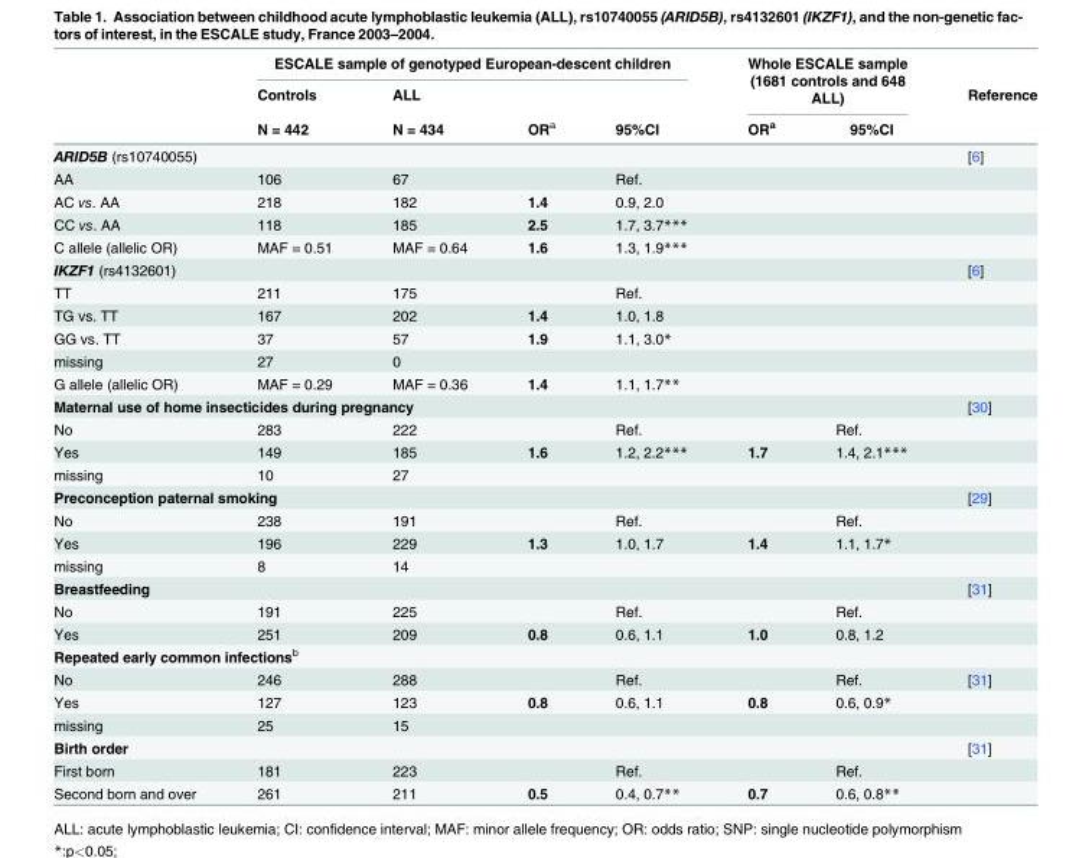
<table><thead><tr><td rowspan="3"></td><td colspan="4">ESCALE sample of genotyped European-descent children</td><td rowspan="2" colspan="2">Whole ESCALE sample (1681 controls and 648 ALL)</td><td rowspan="3">Reference</td></tr><tr><td rowspan="2">Controls N = 442</td><td rowspan="2">ALL N = 434</td><td rowspan="2">OR<sup>a</sup></td><td rowspan="2">95%CI</td></tr><tr><td>OR<sup>a</sup></td><td>95%CI</td></tr></thead><tbody><tr><td>ARID5B (rs10740055)</td><td></td><td></td><td></td><td></td><td></td><td></td><td>[6]</td></tr><tr><td>AA</td><td>106</td><td>67</td><td></td><td>Ref.</td><td></td><td></td><td></td></tr><tr><td>AC vs. AA</td><td>218</td><td>182</td><td>1.4</td><td>0.9, 2.0</td><td></td><td></td><td></td></tr><tr><td>CC vs. AA</td><td>118</td><td>185</td><td>2.5</td><td>1.7, 3.7***</td><td></td><td></td><td></td></tr><tr><td>C allele (allelic OR)</td><td>MAF = 0.51</td><td>MAF = 0.64</td><td>1.6</td><td>1.3, 1.9***</td><td></td><td></td><td></td></tr><tr><td>IKZF1 (rs4132601)</td><td></td><td></td><td></td><td></td><td></td><td></td><td>[6]</td></tr><tr><td>TT</td><td>211</td><td>175</td><td></td><td>Ref.</td><td></td><td></td><td></td></tr><tr><td>TG vs. TT</td><td>167</td><td>202</td><td>1.4</td><td>1.0, 1.8</td><td></td><td></td><td></td></tr><tr><td>GG vs. TT</td><td>37</td><td>57</td><td>1.9</td><td>1.1, 3.0*</td><td></td><td></td><td></td></tr><tr><td>missing</td><td>27</td><td>0</td><td></td><td></td><td></td><td></td><td></td></tr><tr><td>G allele (allelic OR)</td><td>MAF = 0.29</td><td>MAF = 0.36</td><td>1.4</td><td>1.1, 1.7**</td><td></td><td></td><td></td></tr><tr><td colspan="3">Maternal use of home insecticides during pregnancy</td><td></td><td></td><td></td><td></td><td>[30]</td></tr><tr><td>No</td><td>283</td><td>222</td><td></td><td>Ref.</td><td></td><td>Ref.</td><td></td></tr><tr><td>Yes</td><td>149</td><td>185</td><td>1.6</td><td>1.2, 2.2***</td><td>1.7</td><td>1.4, 2.1***</td><td></td></tr><tr><td>missing</td><td>10</td><td>27</td><td></td><td></td><td></td><td></td><td></td></tr><tr><td colspan="3">Preconception paternal smoking</td><td></td><td></td><td></td><td></td><td>[29]</td></tr><tr><td>No</td><td>238</td><td>191</td><td></td><td>Ref.</td><td></td><td>Ref.</td><td></td></tr><tr><td>Yes</td><td>196</td><td>229</td><td>1.3</td><td>1.0, 1.7</td><td>1.4</td><td>1.1, 1.7*</td><td></td></tr><tr><td>missing</td><td>8</td><td>14</td><td></td><td></td><td></td><td></td><td></td></tr><tr><td>Breastfeeding</td><td></td><td></td><td></td><td></td><td></td><td></td><td>[31]</td></tr><tr><td>No</td><td>191</td><td>225</td><td></td><td>Ref.</td><td></td><td>Ref.</td><td></td></tr><tr><td>Yes</td><td>251</td><td>209</td><td>0.8</td><td>0.6, 1.1</td><td>1.0</td><td>0.8, 1.2</td><td></td></tr><tr><td colspan="8">Repeated early common infections<sup>b</sup></td></tr><tr><td>No</td><td>246</td><td>288</td><td></td><td>Ref.</td><td></td><td>Ref.</td><td>[31]</td></tr><tr><td>Yes</td><td>127</td><td>123</td><td>0.8</td><td>0.6, 1.1</td><td>0.8</td><td>0.6, 0.9*</td><td></td></tr><tr><td>missing</td><td>25</td><td>15</td><td></td><td></td><td></td><td></td><td></td></tr><tr><td>Birth order</td><td></td><td></td><td></td><td></td><td></td><td></td><td>[31]</td></tr><tr><td>First born</td><td>181</td><td>223</td><td></td><td>Ref.</td><td></td><td>Ref.</td><td></td></tr><tr><td>Second born and over</td><td>261</td><td>211</td><td>0.5</td><td>0.4, 0.7**</td><td>0.7</td><td>0.6, 0.8**</td><td></td></tr></tbody></table>